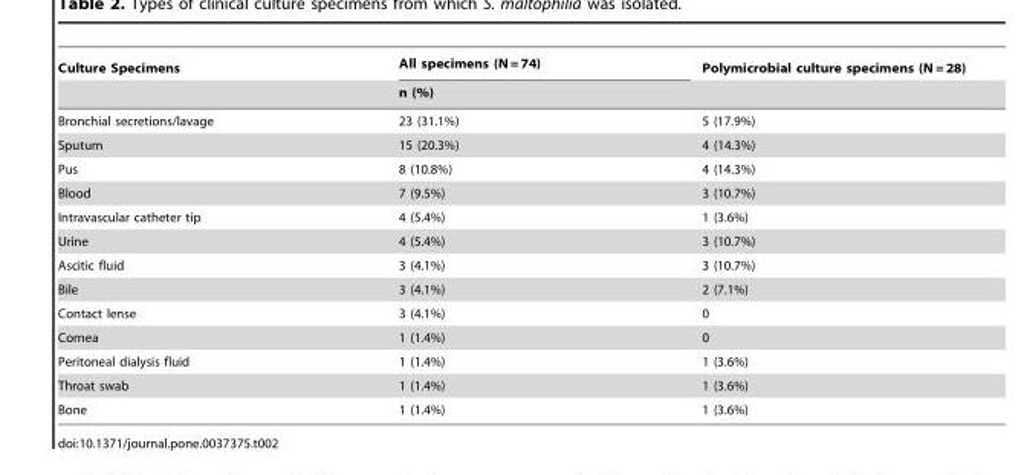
<table><thead><tr><td rowspan="2">Culture Specimens</td><td>All specimens (N = 74)</td><td>Polymicrobial culture specimens (N = 28)</td></tr><tr><td colspan="2">n (%)</td></tr></thead><tbody><tr><td>Bronchial secretions/lavage</td><td>23 (31.1%)</td><td>5 (17.9%)</td></tr><tr><td>Sputum</td><td>15 (20.3%)</td><td>4 (14.3%)</td></tr><tr><td>Pus</td><td>8 (10.8%)</td><td>4 (14.3%)</td></tr><tr><td>Blood</td><td>7 (9.5%)</td><td>3 (10.7%)</td></tr><tr><td>Intravascular catheter tip</td><td>4 (5.4%)</td><td>1 (3.6%)</td></tr><tr><td>Urine</td><td>4 (5.4%)</td><td>3 (10.7%)</td></tr><tr><td>Ascitic fluid</td><td>3 (4.1%)</td><td>3 (10.7%)</td></tr><tr><td>Bile</td><td>3 (4.1%)</td><td>2 (7.1%)</td></tr><tr><td>Contact lense</td><td>3 (4.1%)</td><td>0</td></tr><tr><td>Cornea</td><td>1 (1.4%)</td><td>0</td></tr><tr><td>Peritoneal dialysis fluid</td><td>1 (1.4%)</td><td>1 (3.6%)</td></tr><tr><td>Throat swab</td><td>1 (1.4%)</td><td>1 (3.6%)</td></tr><tr><td>Bone</td><td>1 (1.4%)</td><td>1 (3.6%)</td></tr></tbody></table>